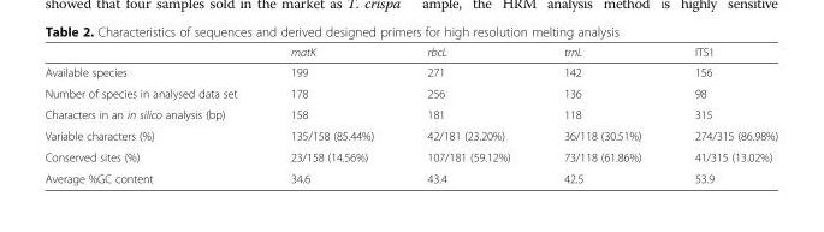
<table><thead><tr><td></td><td>matK</td><td>rbcL</td><td>trnL</td><td>ITS1</td></tr></thead><tbody><tr><td>Available species</td><td>199</td><td>271</td><td>142</td><td>156</td></tr><tr><td>Number of species in analysed data set</td><td>178</td><td>256</td><td>136</td><td>98</td></tr><tr><td>Characters in an in silico analysis (bp)</td><td>158</td><td>181</td><td>118</td><td>315</td></tr><tr><td>Variable characters (%)</td><td>135/158 (85.44%)</td><td>42/181 (23.20%)</td><td>36/118 (30.51%)</td><td>274/315 (86.98%)</td></tr><tr><td>Conserved sites (%)</td><td>23/158 (14.56%)</td><td>107/181 (59.12%)</td><td>73/118 (61.86%)</td><td>41/315 (13.02%)</td></tr><tr><td>Average %GC content</td><td>34.6</td><td>43.4</td><td>42.5</td><td>53.9</td></tr></tbody></table>